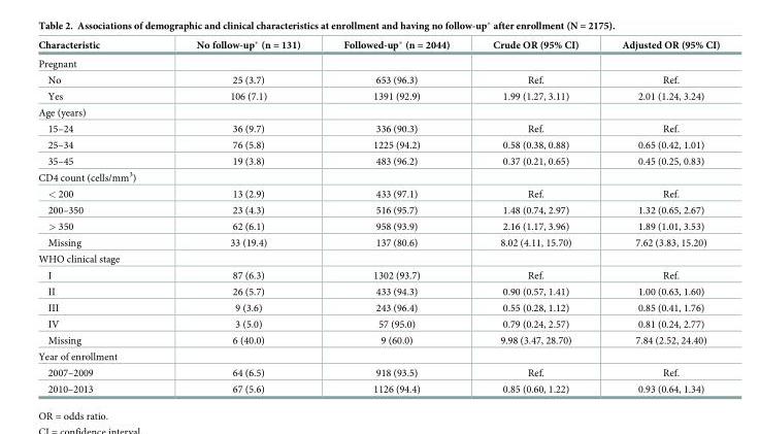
<table><thead><tr><td>Characteristic</td><td>No follow-up* (n = 131)</td><td>Followed-up* (n = 2044)</td><td>Crude OR (95% CI)</td><td>Adjusted OR (95% CI)</td></tr></thead><tbody><tr><td colspan="5">Pregnant</td></tr><tr><td>No</td><td>25 (3.7)</td><td>653 (96.3)</td><td>Ref.</td><td>Ref.</td></tr><tr><td>Yes</td><td>106 (7.1)</td><td>1391 (92.9)</td><td>1.99 (1.27, 3.11)</td><td>2.01 (1.24, 3.24)</td></tr><tr><td colspan="5">Age (years)</td></tr><tr><td>15–24</td><td>36 (9.7)</td><td>336 (90.3)</td><td>Ref.</td><td>Ref.</td></tr><tr><td>25–34</td><td>76 (5.8)</td><td>1225 (94.2)</td><td>0.58 (0.38, 0.88)</td><td>0.65 (0.42, 1.01)</td></tr><tr><td>35–45</td><td>19 (3.8)</td><td>483 (96.2)</td><td>0.37 (0.21, 0.65)</td><td>0.45 (0.25, 0.83)</td></tr><tr><td colspan="5">CD4 count (cells/mm<sup>3</sup>)</td></tr><tr><td>&lt; 200</td><td>13 (2.9)</td><td>433 (97.1)</td><td>Ref.</td><td>Ref.</td></tr><tr><td>200–350</td><td>23 (4.3)</td><td>516 (95.7)</td><td>1.48 (0.74, 2.97)</td><td>1.32 (0.65, 2.67)</td></tr><tr><td>&gt; 350</td><td>62 (6.1)</td><td>958 (93.9)</td><td>2.16 (1.17, 3.96)</td><td>1.89 (1.01, 3.53)</td></tr><tr><td>Missing</td><td>33 (19.4)</td><td>137 (80.6)</td><td>8.02 (4.11, 15.70)</td><td>7.62 (3.83, 15.20)</td></tr><tr><td colspan="5">WHO clinical stage</td></tr><tr><td>I</td><td>87 (6.3)</td><td>1302 (93.7)</td><td>Ref.</td><td>Ref.</td></tr><tr><td>II</td><td>26 (5.7)</td><td>433 (94.3)</td><td>0.90 (0.57, 1.41)</td><td>1.00 (0.63, 1.60)</td></tr><tr><td>III</td><td>9 (3.6)</td><td>243 (96.4)</td><td>0.55 (0.28, 1.12)</td><td>0.85 (0.41, 1.76)</td></tr><tr><td>IV</td><td>3 (5.0)</td><td>57 (95.0)</td><td>0.79 (0.24, 2.57)</td><td>0.81 (0.24, 2.77)</td></tr><tr><td>Missing</td><td>6 (40.0)</td><td>9 (60.0)</td><td>9.98 (3.47, 28.70)</td><td>7.84 (2.52, 24.40)</td></tr><tr><td colspan="5">Year of enrollment</td></tr><tr><td>2007–2009</td><td>64 (6.5)</td><td>918 (93.5)</td><td>Ref.</td><td>Ref.</td></tr><tr><td>2010–2013</td><td>67 (5.6)</td><td>1126 (94.4)</td><td>0.85 (0.60, 1.22)</td><td>0.93 (0.64, 1.34)</td></tr></tbody></table>